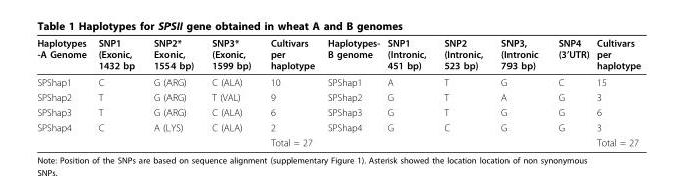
<table><thead><tr><td>Haplotypes -A Genome</td><td>SNP1 (Exonic, 1432 bp</td><td>SNP2* Exonic, 1554 bp)</td><td>SNP3* (Exonic, 1599 bp)</td><td>Cultivars per haplotype</td><td>Haplotypes- B genome</td><td>SNP1 (Intronic, 451 bp)</td><td>SNP2 (Intronic, 523 bp)</td><td>SNP3, (Intronic 793 bp)</td><td>SNP4 (3’UTR)</td><td>Cultivars per haplotype</td></tr></thead><tbody><tr><td>SPShap1</td><td>C</td><td>G (ARG)</td><td>C (ALA)</td><td>10</td><td>SPShap1</td><td>A</td><td>T</td><td>G</td><td>C</td><td>15</td></tr><tr><td>SPShap2</td><td>T</td><td>G (ARG)</td><td>T (VAL)</td><td>9</td><td>SPShap2</td><td>G</td><td>T</td><td>A</td><td>G</td><td>3</td></tr><tr><td>SPShap3</td><td>T</td><td>G (ARG)</td><td>C (ALA)</td><td>6</td><td>SPShap3</td><td>G</td><td>T</td><td>G</td><td>G</td><td>6</td></tr><tr><td rowspan="2">SPShap4</td><td>C</td><td>A (LYS)</td><td>C (ALA)</td><td>2</td><td>SPShap4</td><td>G</td><td>C</td><td>G</td><td>G</td><td>3</td></tr><tr><td></td><td></td><td></td><td>Total = 27</td><td></td><td></td><td></td><td></td><td></td><td>Total = 27</td></tr></tbody></table>